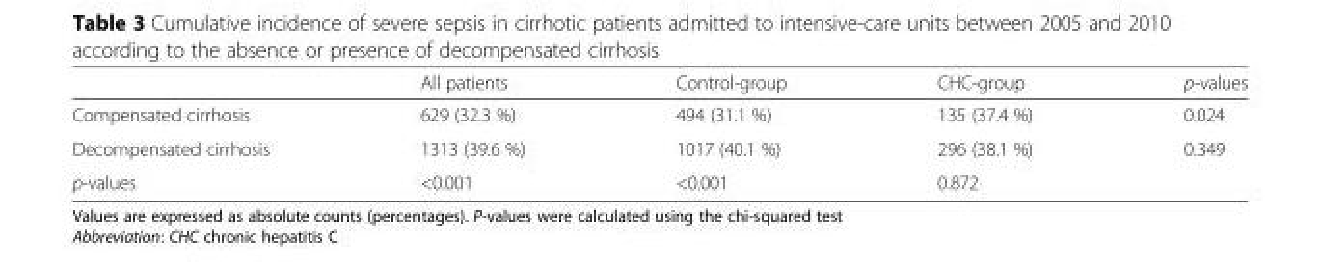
<table><thead><tr><td></td><td>All patients</td><td>Control-group</td><td>CHC-group</td><td>p-values</td></tr></thead><tbody><tr><td>Compensated cirrhosis</td><td>629 (32.3 %)</td><td>494 (31.1 %)</td><td>135 (37.4 %)</td><td>0.024</td></tr><tr><td>Decompensated cirrhosis</td><td>1313 (39.6 %)</td><td>1017 (40.1 %)</td><td>296 (38.1 %)</td><td>0.349</td></tr><tr><td>p-values</td><td>&lt;0.001</td><td>&lt;0.001</td><td>0.872</td><td></td></tr></tbody></table>